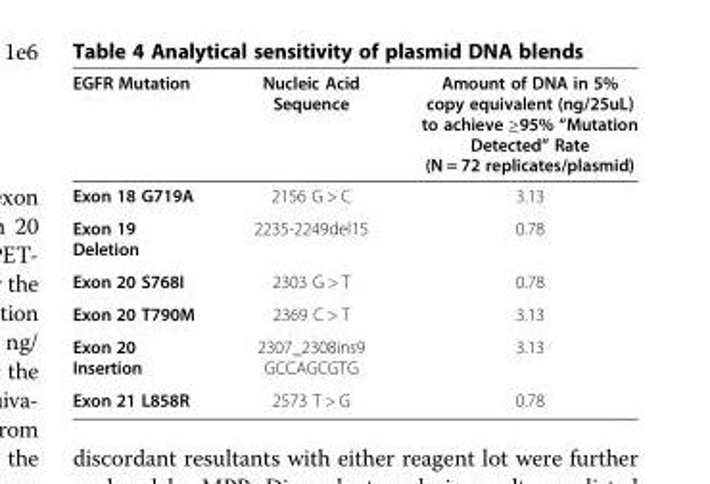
<table><thead><tr><td>EGFR Mutation</td><td>Nucleic Acid Sequence</td><td>Amount of DNA in 5% copy equivalent (ng/25uL) to achieve ≥95% “Mutation Detected” Rate (N = 72 replicates/plasmid)</td></tr></thead><tbody><tr><td>Exon 18 G719A</td><td>2156 G &gt; C</td><td>3.13</td></tr><tr><td>Exon 19 Deletion</td><td>2235-2249del15</td><td>0.78</td></tr><tr><td>Exon 20 S768I</td><td>2303 G &gt; T</td><td>0.78</td></tr><tr><td>Exon 20 T790M</td><td>2369 C &gt; T</td><td>3.13</td></tr><tr><td>Exon 20 Insertion</td><td>2307_2308ins9 GCCAGCGTG</td><td>3.13</td></tr><tr><td>Exon 21 L858R</td><td>2573 T &gt; G</td><td>0.78</td></tr></tbody></table>